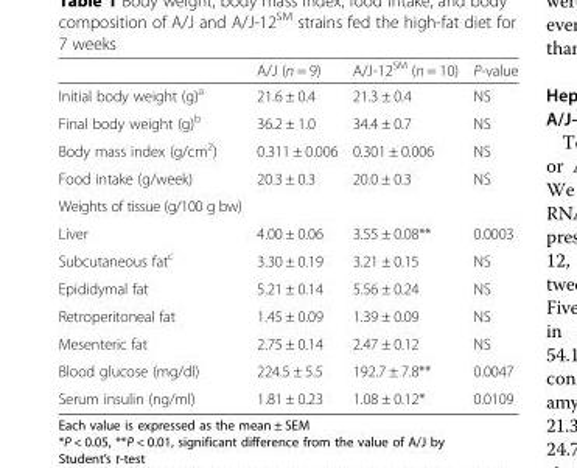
<table><thead><tr><td></td><td>A/J (n = 9)</td><td>A/J-12<sup>SM</sup> (n = 10)</td><td>P-value</td></tr></thead><tbody><tr><td>Initial body weight (g)<sup>a</sup></td><td>21.6 ± 0.4</td><td>21.3 ± 0.4</td><td>NS</td></tr><tr><td>Final body weight (g)<sup>b</sup></td><td>36.2 ± 1.0</td><td>34.4 ± 0.7</td><td>NS</td></tr><tr><td>Body mass index (g/cm<sup>2</sup>)</td><td>0.311 ± 0.006</td><td>0.301 ± 0.006</td><td>NS</td></tr><tr><td>Food intake (g/week)</td><td>20.3 ± 0.3</td><td>20.0 ± 0.3</td><td>NS</td></tr><tr><td colspan="4">Weights of tissue (g/100 g bw)</td></tr><tr><td>Liver</td><td>4.00 ± 0.06</td><td>3.55 ± 0.08**</td><td>0.0003</td></tr><tr><td>Subcutaneous fat<sup>c</sup></td><td>3.30 ± 0.19</td><td>3.21 ± 0.15</td><td>NS</td></tr><tr><td>Epididymal fat</td><td>5.21 ± 0.14</td><td>5.56 ± 0.24</td><td>NS</td></tr><tr><td>Retroperitoneal fat</td><td>1.45 ± 0.09</td><td>1.39 ± 0.09</td><td>NS</td></tr><tr><td>Mesenteric fat</td><td>2.75 ± 0.14</td><td>2.47 ± 0.12</td><td>NS</td></tr><tr><td>Blood glucose (mg/dl)</td><td>224.5 ± 5.5</td><td>192.7 ± 7.8**</td><td>0.0047</td></tr><tr><td>Serum insulin (ng/ml)</td><td>1.81 ± 0.23</td><td>1.08 ± 0.12*</td><td>0.0109</td></tr></tbody></table>